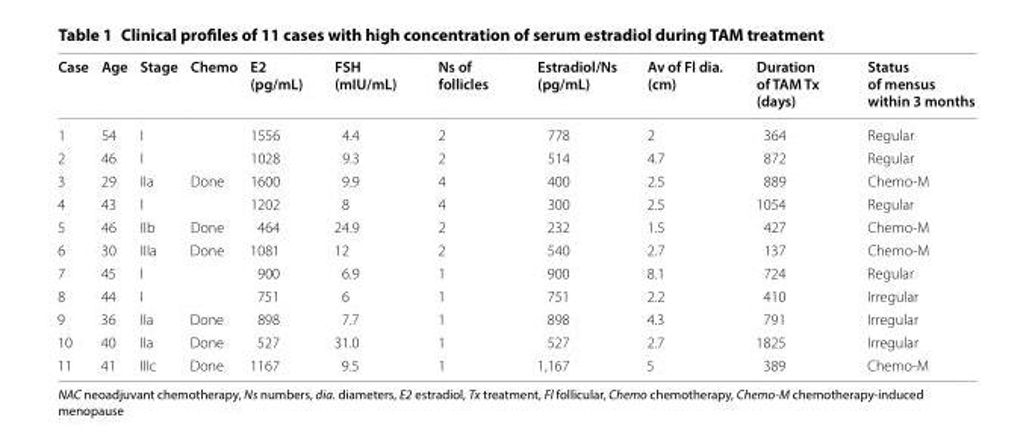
<table><thead><tr><td>Case</td><td>Age</td><td>Stage</td><td>Chemo</td><td>E2 (pg/mL)</td><td>FSH (mIU/mL)</td><td>Ns of follicles</td><td>Estradiol/Ns (pg/mL)</td><td>Av of Fl dia. (cm)</td><td>Duration of TAM Tx (days)</td><td>Status of mensus within 3 months</td></tr></thead><tbody><tr><td>1</td><td>54</td><td>I</td><td></td><td>1556</td><td>4.4</td><td>2</td><td>778</td><td>2</td><td>364</td><td>Regular</td></tr><tr><td>2</td><td>46</td><td>I</td><td></td><td>1028</td><td>9.3</td><td>2</td><td>514</td><td>4.7</td><td>872</td><td>Regular</td></tr><tr><td>3</td><td>29</td><td>IIa</td><td>Done</td><td>1600</td><td>9.9</td><td>4</td><td>400</td><td>2.5</td><td>889</td><td>Chemo-M</td></tr><tr><td>4</td><td>43</td><td>I</td><td></td><td>1202</td><td>8</td><td>4</td><td>300</td><td>2.5</td><td>1054</td><td>Regular</td></tr><tr><td>5</td><td>46</td><td>IIb</td><td>Done</td><td>464</td><td>24.9</td><td>2</td><td>232</td><td>1.5</td><td>427</td><td>Chemo-M</td></tr><tr><td>6</td><td>30</td><td>IIIa</td><td>Done</td><td>1081</td><td>12</td><td>2</td><td>540</td><td>2.7</td><td>137</td><td>Chemo-M</td></tr><tr><td>7</td><td>45</td><td>I</td><td></td><td>900</td><td>6.9</td><td>1</td><td>900</td><td>8.1</td><td>724</td><td>Regular</td></tr><tr><td>8</td><td>44</td><td>I</td><td></td><td>751</td><td>6</td><td>1</td><td>751</td><td>2.2</td><td>410</td><td>Irregular</td></tr><tr><td>9</td><td>36</td><td>IIa</td><td>Done</td><td>898</td><td>7.7</td><td>1</td><td>898</td><td>4.3</td><td>791</td><td>Irregular</td></tr><tr><td>10</td><td>40</td><td>IIa</td><td>Done</td><td>527</td><td>31.0</td><td>1</td><td>527</td><td>2.7</td><td>1825</td><td>Irregular</td></tr><tr><td>11</td><td>41</td><td>IIIc</td><td>Done</td><td>1167</td><td>9.5</td><td>1</td><td>1,167</td><td>5</td><td>389</td><td>Chemo-M</td></tr></tbody></table>